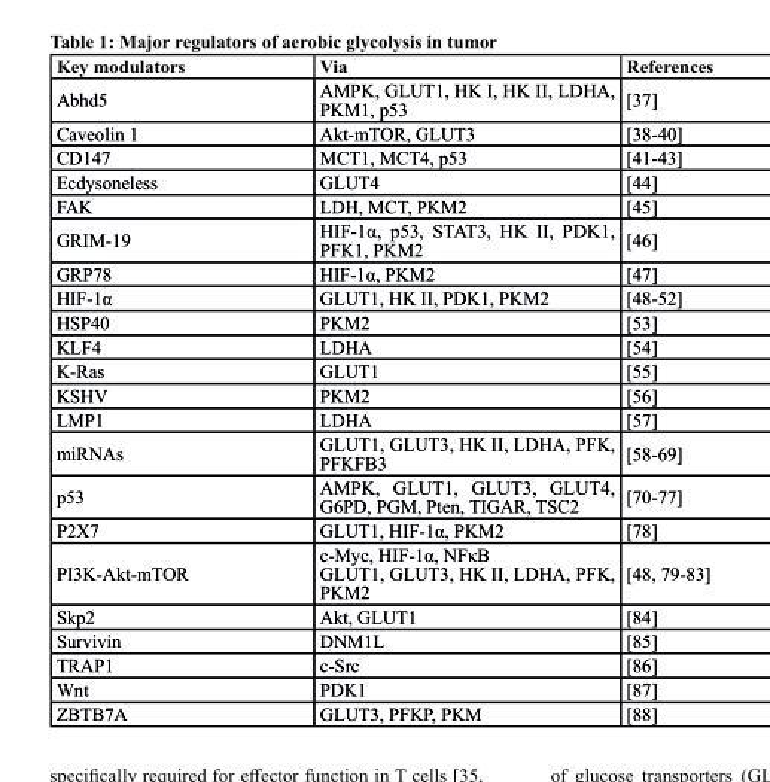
<table><thead><tr><td>Key modulators</td><td>Via</td><td>references</td></tr></thead><tbody><tr><td>Abhd5</td><td>AMPK, GLUT1, HK I, HK II, LDHA, PKM1, p53</td><td>[37]</td></tr><tr><td>Caveolin 1</td><td>Akt-mTOR, GLUT3</td><td>[38-40]</td></tr><tr><td>CD147</td><td>MCT1, MCT4, p53</td><td>[41-43]</td></tr><tr><td>Ecdysoneless</td><td>GLUT4</td><td>[44]</td></tr><tr><td>FAK</td><td>LDH, MCT, PKM2</td><td>[45]</td></tr><tr><td>GRIM-19</td><td>HIF-1α, p53, STAT3, HK II, PDK1, PFK1, PKM2</td><td>[46]</td></tr><tr><td>GRP78</td><td>HIF-1α, PKM2</td><td>[47]</td></tr><tr><td>HIF-1α</td><td>GLUT1, HK II, PDK1, PKM2</td><td>[48-52]</td></tr><tr><td>HSP40</td><td>PKM2</td><td>[53]</td></tr><tr><td>KLF4</td><td>LDHA</td><td>[54]</td></tr><tr><td>K-Ras</td><td>GLUT1</td><td>[55]</td></tr><tr><td>KSHV</td><td>PKM2</td><td>[56]</td></tr><tr><td>LMP1</td><td>LDHA</td><td>[57]</td></tr><tr><td>miRNAs</td><td>GLUT1, GLUT3, HK II, LDHA, PFK, PFKFB3</td><td>[58-69]</td></tr><tr><td>p53</td><td>AMPK, GLUT1, GLUT3, GLUT4, G6PD, PGM, Pten, TIGAR, TSC2</td><td>[70-77]</td></tr><tr><td>P2X7</td><td>GLUT1, HIF-1α, PKM2</td><td>[78]</td></tr><tr><td>PI3K-Akt-mTOR</td><td>c-Myc, HIF-1α, NFκB GLUT1, GLUT3, HK II, LDHA, PFK, PKM2</td><td>[48, 79-83]</td></tr><tr><td>Skp2</td><td>Akt, GLUT1</td><td>[84]</td></tr><tr><td>Survivin</td><td>DNM1L</td><td>[85]</td></tr><tr><td>TRAP1</td><td>c-Src</td><td>[86]</td></tr><tr><td>Wnt</td><td>PDK1</td><td>[87]</td></tr><tr><td>ZBTB7A</td><td>GLUT3, PFKP, PKM</td><td>[88]</td></tr></tbody></table>